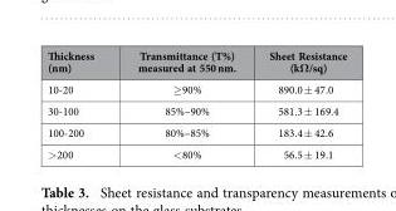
<table><thead><tr><td>Thickness (nm)</td><td>Transmittance (T%) measured at 550 nm.</td><td>Sheet Resistance (kΩ/sq)</td></tr></thead><tbody><tr><td>10-20</td><td>≥ 90%</td><td>890.0 ± 47.0</td></tr><tr><td>30-100</td><td>85%–90%</td><td>581.3 ± 169.4</td></tr><tr><td>100-200</td><td>80%–85%</td><td>183.4 ± 42.6</td></tr><tr><td>&gt; 200</td><td>&lt; 80%</td><td>56.5 ± 19.1</td></tr></tbody></table>